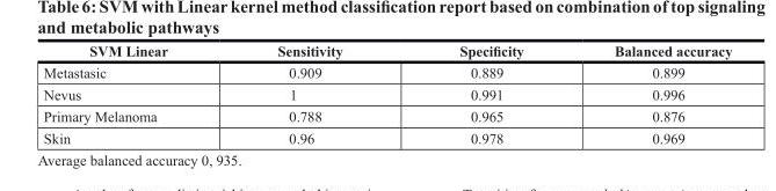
<table><thead><tr><td>SVM Linear</td><td>Sensitivity</td><td>Specificity</td><td>Balanced accuracy</td></tr></thead><tbody><tr><td>Metastasic</td><td>0.909</td><td>0.889</td><td>0.899</td></tr><tr><td>Nevus</td><td>1</td><td>0.991</td><td>0.996</td></tr><tr><td>Primary Melanoma</td><td>0.788</td><td>0.965</td><td>0.876</td></tr><tr><td>Skin</td><td>0.96</td><td>0.978</td><td>0.969</td></tr></tbody></table>